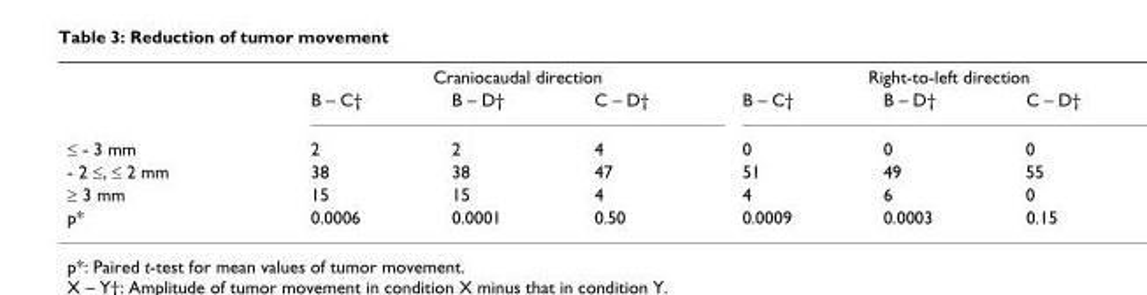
<table><thead><tr><td rowspan="2"></td><td colspan="3">Craniocaudal direction</td><td colspan="3">Right-to-left direction</td></tr><tr><td>B – C†</td><td>B – D†</td><td>C – D†</td><td>B – C†</td><td>B – D†</td><td>C – D†</td></tr></thead><tbody><tr><td>≤ - 3 mm</td><td>2</td><td>2</td><td>4</td><td>0</td><td>0</td><td>0</td></tr><tr><td>- 2 ≤, ≤ 2 mm</td><td>38</td><td>38</td><td>47</td><td>51</td><td>49</td><td>55</td></tr><tr><td>≥ 3 mm</td><td>15</td><td>15</td><td>4</td><td>4</td><td>6</td><td>0</td></tr><tr><td>p*</td><td>0.0006</td><td>0.0001</td><td>0.50</td><td>0.0009</td><td>0.0003</td><td>0.15</td></tr></tbody></table>